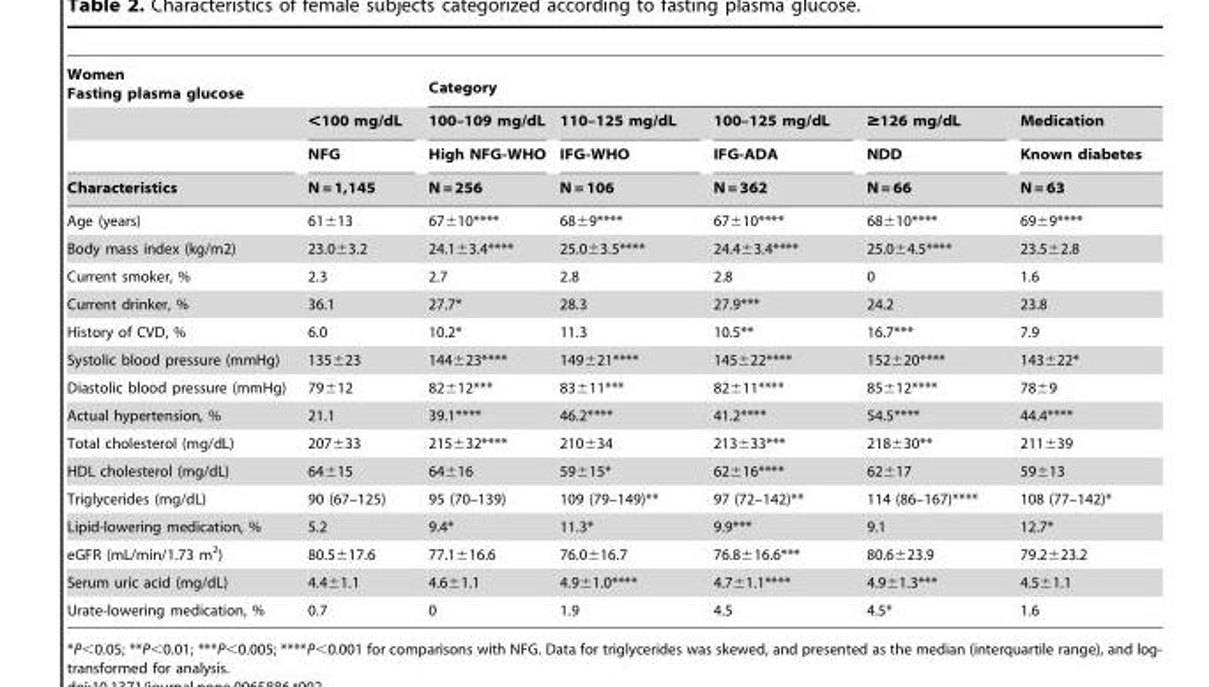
<table><thead><tr><td rowspan="4">Women Fasting plasma glucose Characteristics</td><td rowspan="4">&lt;100 mg/dL NFG N = 1,145</td><td colspan="5">Category</td></tr><tr><td rowspan="3">100–109 mg/dL High NFG-WHO N = 256</td><td rowspan="3">110–125 mg/dL IFG-WHO N = 106</td><td rowspan="3">100–125 mg/dL IFG-ADA N = 362</td><td rowspan="3">≥126 mg/dL NDD N = 66</td><td rowspan="3">Medication Known diabetes N = 63</td></tr><tr></tr><tr></tr></thead><tbody><tr><td>Age (years)</td><td>61±13</td><td>67±10****</td><td>68±9****</td><td>67±10****</td><td>68±10****</td><td>69±9****</td></tr><tr><td>Body mass index (kg/m2)</td><td>23.0±3.2</td><td>24.1±3.4****</td><td>25.0±3.5****</td><td>24.4±3.4****</td><td>25.0±4.5****</td><td>23.5±2.8</td></tr><tr><td>Current smoker, %</td><td>2.3</td><td>2.7</td><td>2.8</td><td>2.8</td><td>0</td><td>1.6</td></tr><tr><td>Current drinker, %</td><td>36.1</td><td>27.7*</td><td>28.3</td><td>27.9***</td><td>24.2</td><td>23.8</td></tr><tr><td>History of CVD, %</td><td>6.0</td><td>10.2*</td><td>11.3</td><td>10.5**</td><td>16.7***</td><td>7.9</td></tr><tr><td>Systolic blood pressure (mmHg)</td><td>135±23</td><td>144±23****</td><td>149±21****</td><td>145±22****</td><td>152±20****</td><td>143±22*</td></tr><tr><td>Diastolic blood pressure (mmHg)</td><td>79±12</td><td>82±12***</td><td>83±11***</td><td>82±11****</td><td>85±12****</td><td>78±9</td></tr><tr><td>Actual hypertension, %</td><td>21.1</td><td>39.1****</td><td>46.2****</td><td>41.2****</td><td>54.5****</td><td>44.4****</td></tr><tr><td>Total cholesterol (mg/dL)</td><td>207±33</td><td>215±32****</td><td>210±34</td><td>213±33***</td><td>218±30**</td><td>211±39</td></tr><tr><td>HDL cholesterol (mg/dL)</td><td>64±15</td><td>64±16</td><td>59±15*</td><td>62±16****</td><td>62±17</td><td>59±13</td></tr><tr><td>Triglycerides (mg/dL)</td><td>90 (67–125)</td><td>95 (70–139)</td><td>109 (79–149)**</td><td>97 (72–142)**</td><td>114 (86–167)****</td><td>108 (77–142)*</td></tr><tr><td>Lipid-lowering medication, %</td><td>5.2</td><td>9.4*</td><td>11.3*</td><td>9.9***</td><td>9.1</td><td>12.7*</td></tr><tr><td>eGFR (mL/min/1.73 m<sup>2</sup>)</td><td>80.5±17.6</td><td>77.1±16.6</td><td>76.0±16.7</td><td>76.8±16.6***</td><td>80.6±23.9</td><td>79.2±23.2</td></tr><tr><td>Serum uric acid (mg/dL)</td><td>4.4±1.1</td><td>4.6±1.1</td><td>4.9±1.0****</td><td>4.7±1.1****</td><td>4.9±1.3***</td><td>4.5±1.1</td></tr><tr><td>Urate-lowering medication, %</td><td>0.7</td><td>0</td><td>1.9</td><td>4.5</td><td>4.5*</td><td>1.6</td></tr></tbody></table>